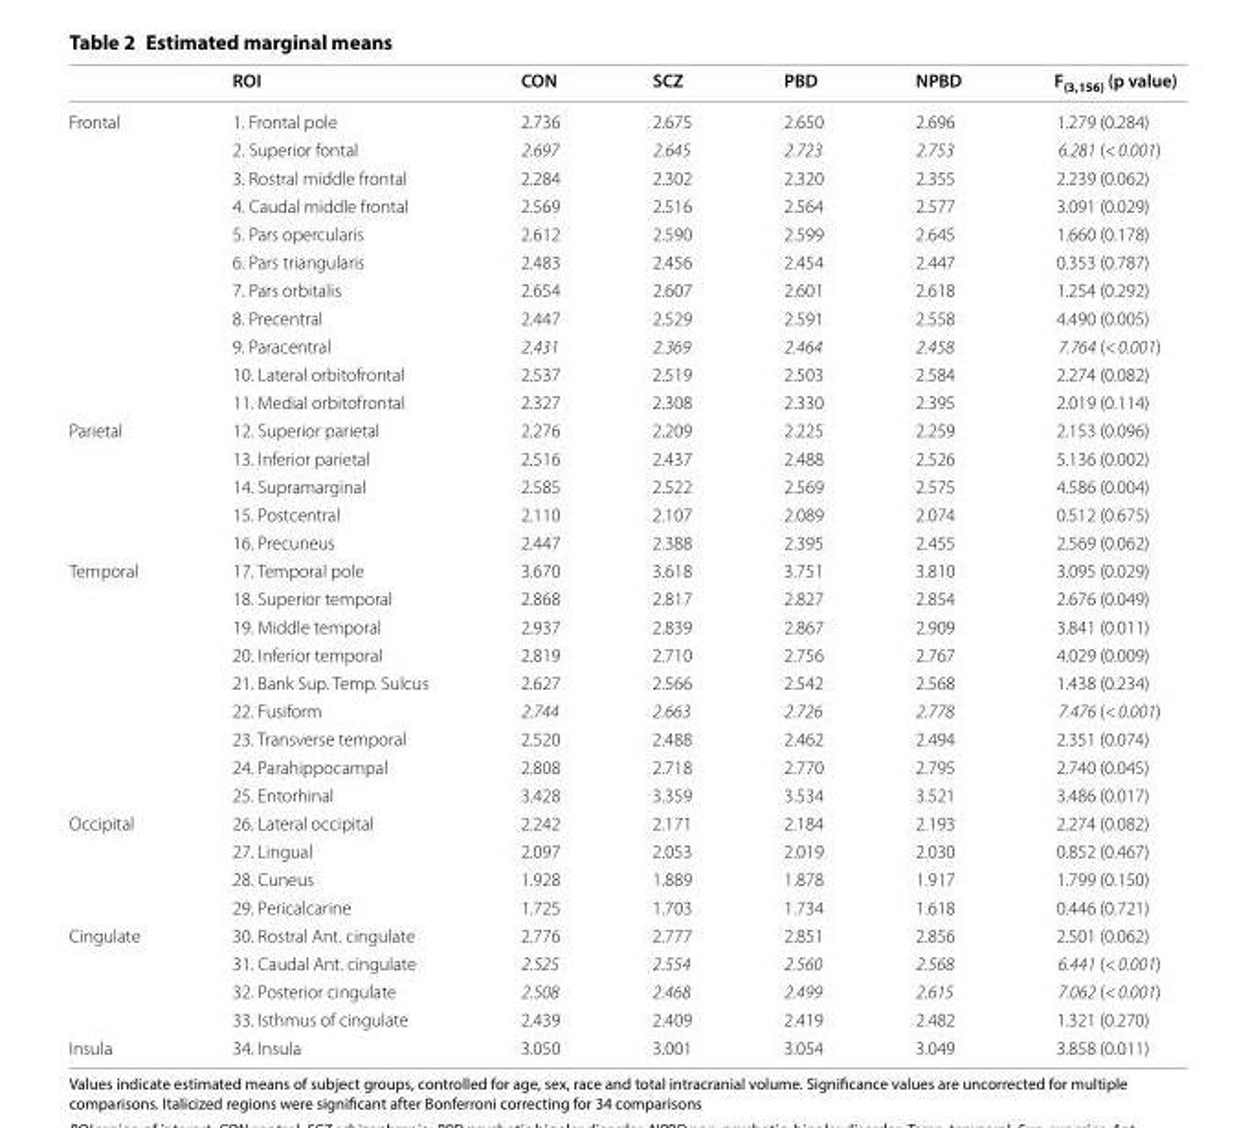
<table><thead><tr><td></td><td>ROI</td><td>CON</td><td>SCZ</td><td>PBD</td><td>NPBD</td><td>F<sub>(3,156)</sub> (p value)</td></tr></thead><tbody><tr><td rowspan="11">Frontal</td><td>1. Frontal pole</td><td>2.736</td><td>2.675</td><td>2.650</td><td>2.696</td><td>1.279 (0.284)</td></tr><tr><td>2. Superior fontal</td><td>2.697</td><td>2.645</td><td>2.723</td><td>2.753</td><td>6.281 (&lt; 0.001)</td></tr><tr><td>3. Rostral middle frontal</td><td>2.284</td><td>2.302</td><td>2.320</td><td>2.355</td><td>2.239 (0.062)</td></tr><tr><td>4. Caudal middle frontal</td><td>2.569</td><td>2.516</td><td>2.564</td><td>2.577</td><td>3.091 (0.029)</td></tr><tr><td>5. Pars opercularis</td><td>2.612</td><td>2.590</td><td>2.599</td><td>2.645</td><td>1.660 (0.178)</td></tr><tr><td>6. Pars triangularis</td><td>2.483</td><td>2.456</td><td>2.454</td><td>2.447</td><td>0.353 (0.787)</td></tr><tr><td>7. Pars orbitalis</td><td>2.654</td><td>2.607</td><td>2.601</td><td>2.618</td><td>1.254 (0.292)</td></tr><tr><td>8. Precentral</td><td>2.447</td><td>2.529</td><td>2.591</td><td>2.558</td><td>4.490 (0.005)</td></tr><tr><td>9. Paracentral</td><td>2.431</td><td>2.369</td><td>2.464</td><td>2.458</td><td>7.764 (&lt; 0.001)</td></tr><tr><td>10. Lateral orbitofrontal</td><td>2.537</td><td>2.519</td><td>2.503</td><td>2.584</td><td>2.274 (0.082)</td></tr><tr><td>11. Medial orbitofrontal</td><td>2.327</td><td>2.308</td><td>2.330</td><td>2.395</td><td>2.019 (0.114)</td></tr><tr><td rowspan="5">Parietal</td><td>12. Superior parietal</td><td>2.276</td><td>2.209</td><td>2.225</td><td>2.259</td><td>2.153 (0.096)</td></tr><tr><td>13. Inferior parietal</td><td>2.516</td><td>2.437</td><td>2.488</td><td>2.526</td><td>5.136 (0.002)</td></tr><tr><td>14. Supramarginal</td><td>2.585</td><td>2.522</td><td>2.569</td><td>2.575</td><td>4.586 (0.004)</td></tr><tr><td>15. Postcentral</td><td>2.110</td><td>2.107</td><td>2.089</td><td>2.074</td><td>0.512 (0.675)</td></tr><tr><td>16. Precuneus</td><td>2.447</td><td>2.388</td><td>2.395</td><td>2.455</td><td>2.569 (0.062)</td></tr><tr><td rowspan="9">Temporal</td><td>17. Temporal pole</td><td>3.670</td><td>3.618</td><td>3.751</td><td>3.810</td><td>3.095 (0.029)</td></tr><tr><td>18. Superior temporal</td><td>2.868</td><td>2.817</td><td>2.827</td><td>2.854</td><td>2.676 (0.049)</td></tr><tr><td>19. Middle temporal</td><td>2.937</td><td>2.839</td><td>2.867</td><td>2.909</td><td>3.841 (0.011)</td></tr><tr><td>20. Inferior temporal</td><td>2.819</td><td>2.710</td><td>2.756</td><td>2.767</td><td>4.029 (0.009)</td></tr><tr><td>21. Bank Sup. Temp. Sulcus</td><td>2.627</td><td>2.566</td><td>2.542</td><td>2.568</td><td>1.438 (0.234)</td></tr><tr><td>22. Fusiform</td><td>2.744</td><td>2.663</td><td>2.726</td><td>2.778</td><td>7.476 (&lt; 0.001)</td></tr><tr><td>23. Transverse temporal</td><td>2.520</td><td>2.488</td><td>2.462</td><td>2.494</td><td>2.351 (0.074)</td></tr><tr><td>24. Parahippocampal</td><td>2.808</td><td>2.718</td><td>2.770</td><td>2.795</td><td>2.740 (0.045)</td></tr><tr><td>25. Entorhinal</td><td>3.428</td><td>3.359</td><td>3.534</td><td>3.521</td><td>3.486 (0.017)</td></tr><tr><td rowspan="4">Occipital</td><td>26. Lateral occipital</td><td>2.242</td><td>2.171</td><td>2.184</td><td>2.193</td><td>2.274 (0.082)</td></tr><tr><td>27. Lingual</td><td>2.097</td><td>2.053</td><td>2.019</td><td>2.030</td><td>0.852 (0.467)</td></tr><tr><td>28. Cuneus</td><td>1.928</td><td>1.889</td><td>1.878</td><td>1.917</td><td>1.799 (0.150)</td></tr><tr><td>29. Pericalcarine</td><td>1.725</td><td>1.703</td><td>1.734</td><td>1.618</td><td>0.446 (0.721)</td></tr><tr><td rowspan="4">Cingulate</td><td>30. Rostral Ant. cingulate</td><td>2.776</td><td>2.777</td><td>2.851</td><td>2.856</td><td>2.501 (0.062)</td></tr><tr><td>31. Caudal Ant. cingulate</td><td>2.525</td><td>2.554</td><td>2.560</td><td>2.568</td><td>6.441 (&lt; 0.001)</td></tr><tr><td>32. Posterior cingulate</td><td>2.508</td><td>2.468</td><td>2.499</td><td>2.615</td><td>7.062 (&lt; 0.001)</td></tr><tr><td>33. Isthmus of cingulate</td><td>2.439</td><td>2.409</td><td>2.419</td><td>2.482</td><td>1.321 (0.270)</td></tr><tr><td>Insula</td><td>34. Insula</td><td>3.050</td><td>3.001</td><td>3.054</td><td>3.049</td><td>3.858 (0.011)</td></tr></tbody></table>